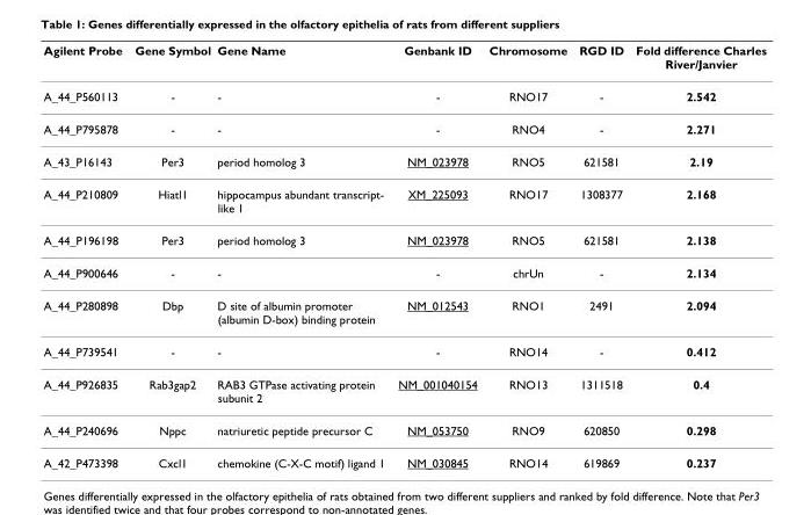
<table><thead><tr><td>Agilent Probe</td><td>Gene Symbol</td><td>Gene Name</td><td>Genbank ID</td><td>Chromosome</td><td>RGD ID</td><td>Fold difference Charles River/Janvier</td></tr></thead><tbody><tr><td>A_44_P560113</td><td>-</td><td>-</td><td>-</td><td>RNO17</td><td>-</td><td>2.542</td></tr><tr><td>A_44_P795878</td><td>-</td><td>-</td><td>-</td><td>RNO4</td><td>-</td><td>2.271</td></tr><tr><td>A_43_P16143</td><td>Per3</td><td>period homolog 3</td><td>NM_023978</td><td>RNO5</td><td>621581</td><td>2.19</td></tr><tr><td>A_44_P210809</td><td>Hiatl1</td><td>hippocampus abundant transcript- like 1</td><td>XM_225093</td><td>RNO17</td><td>1308377</td><td>2.168</td></tr><tr><td>A_44_P196198</td><td>Per3</td><td>period homolog 3</td><td>NM_023978</td><td>RNO5</td><td>621581</td><td>2.138</td></tr><tr><td>A_44_P900646</td><td>-</td><td>-</td><td>-</td><td>chrUn</td><td>-</td><td>2.134</td></tr><tr><td>A_44_P280898</td><td>Dbp</td><td>D site of albumin promoter (albumin D-box) binding protein</td><td>NM_012543</td><td>RNO1</td><td>2491</td><td>2.094</td></tr><tr><td>A_44_P739541</td><td>-</td><td>-</td><td>-</td><td>RNO14</td><td>-</td><td>0.412</td></tr><tr><td>A_44_P926835</td><td>Rab3gap2</td><td>RAB3 GTPase activating protein subunit 2</td><td>NM_001040154</td><td>RNO13</td><td>1311518</td><td>0.4</td></tr><tr><td>A_44_P240696</td><td>Nppc</td><td>natriuretic peptide precursor C</td><td>NM_053750</td><td>RNO9</td><td>620850</td><td>0.298</td></tr><tr><td>A_42_P473398</td><td>Cxcl1</td><td>chemokine (C-X-C motif) ligand 1</td><td>NM_030845</td><td>RNO14</td><td>619869</td><td>0.237</td></tr></tbody></table>